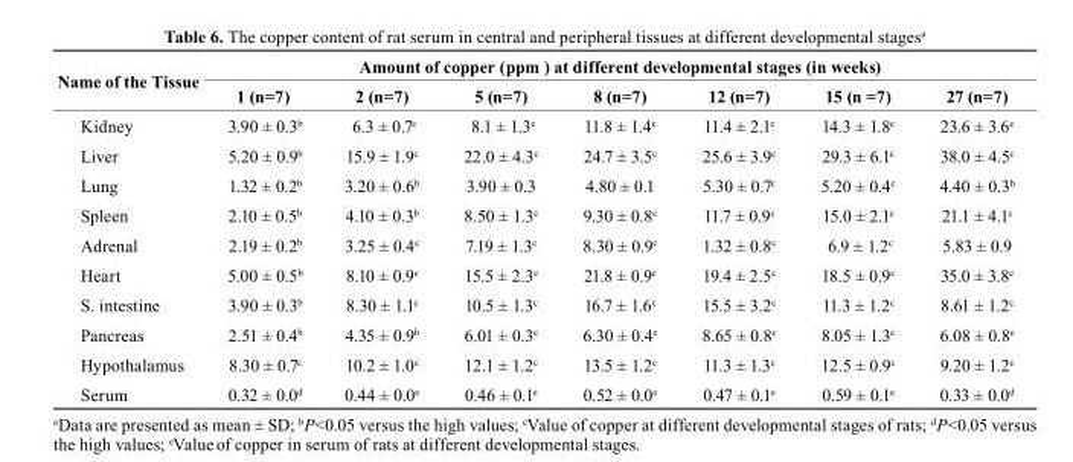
<table><thead><tr><td rowspan="2">Name of the Tissue</td><td colspan="7">Amount of copper (ppm ) at different developmental stages (in weeks)</td></tr><tr><td>1 (n=7)</td><td>2 (n=7)</td><td>5 (n=7)</td><td>8 (n=7)</td><td>12 (n=7)</td><td>15 (n =7)</td><td>27 (n=7)</td></tr></thead><tbody><tr><td>Kidney</td><td>3.90 ± 0.3<sup>b</sup></td><td>6.3 ± 0.7<sup>c</sup></td><td>8.1 ± 1.3<sup>c</sup></td><td>11.8 ± 1.4<sup>c</sup></td><td>11.4 ± 2.1<sup>c</sup></td><td>14.3 ± 1.8<sup>c</sup></td><td>23.6 ± 3.6<sup>c</sup></td></tr><tr><td>Liver</td><td>5.20 ± 0.9<sup>b</sup></td><td>15.9 ± 1.9<sup>c</sup></td><td>22.0 ± 4.3<sup>c</sup></td><td>24.7 ± 3.5<sup>c</sup></td><td>25.6 ± 3.9<sup>c</sup></td><td>29.3 ± 6.1<sup>c</sup></td><td>38.0 ± 4.5<sup>c</sup></td></tr><tr><td>Lung</td><td>1.32 ± 0.2<sup>b</sup></td><td>3.20 ± 0.6<sup>b</sup></td><td>3.90 ± 0.3</td><td>4.80 ± 0.1</td><td>5.30 ± 0.7<sup>c</sup></td><td>5.20 ± 0.4<sup>c</sup></td><td>4.40 ± 0.3<sup>b</sup></td></tr><tr><td>Spleen</td><td>2.10 ± 0.5<sup>b</sup></td><td>4.10 ± 0.3<sup>b</sup></td><td>8.50 ± 1.3<sup>c</sup></td><td>9.30 ± 0.8<sup>c</sup></td><td>11.7 ± 0.9<sup>c</sup></td><td>15.0 ± 2.1<sup>c</sup></td><td>21.1 ± 4.1<sup>c</sup></td></tr><tr><td>Adrenal</td><td>2.19 ± 0.2<sup>b</sup></td><td>3.25 ± 0.4<sup>c</sup></td><td>7.19 ± 1.3<sup>c</sup></td><td>8.30 ± 0.9<sup>c</sup></td><td>1.32 ± 0.8<sup>c</sup></td><td>6.9 ± 1.2<sup>c</sup></td><td>5.83 ± 0.9</td></tr><tr><td>Heart</td><td>5.00 ± 0.5<sup>b</sup></td><td>8.10 ± 0.9<sup>c</sup></td><td>15.5 ± 2.3<sup>c</sup></td><td>21.8 ± 0.9<sup>c</sup></td><td>19.4 ± 2.5<sup>c</sup></td><td>18.5 ± 0.9<sup>c</sup></td><td>35.0 ± 3.8<sup>c</sup></td></tr><tr><td>S. intestine</td><td>3.90 ± 0.3<sup>b</sup></td><td>8.30 ± 1.1<sup>c</sup></td><td>10.5 ± 1.3<sup>c</sup></td><td>16.7 ± 1.6<sup>c</sup></td><td>15.5 ± 3.2<sup>c</sup></td><td>11.3 ± 1.2<sup>c</sup></td><td>8.61 ± 1.2<sup>c</sup></td></tr><tr><td>Pancreas</td><td>2.51 ± 0.4<sup>b</sup></td><td>4.35 ± 0.9<sup>b</sup></td><td>6.01 ± 0.3<sup>c</sup></td><td>6.30 ± 0.4<sup>c</sup></td><td>8.65 ± 0.8<sup>c</sup></td><td>8.05 ± 1.3<sup>c</sup></td><td>6.08 ± 0.8<sup>c</sup></td></tr><tr><td>Hypothalamus</td><td>8.30 ± 0.7<sup>c</sup></td><td>10.2 ± 1.0<sup>c</sup></td><td>12.1 ± 1.2<sup>c</sup></td><td>13.5 ± 1.2<sup>c</sup></td><td>11.3 ± 1.3<sup>c</sup></td><td>12.5 ± 0.9<sup>c</sup></td><td>9.20 ± 1.2<sup>c</sup></td></tr><tr><td>Serum</td><td>0.32 ± 0.0<sup>d</sup></td><td>0.44 ± 0.0<sup>e</sup></td><td>0.46 ± 0.1<sup>e</sup></td><td>0.52 ± 0.0<sup>e</sup></td><td>0.47 ± 0.1<sup>e</sup></td><td>0.59 ± 0.1<sup>e</sup></td><td>0.33 ± 0.0<sup>d</sup></td></tr></tbody></table>